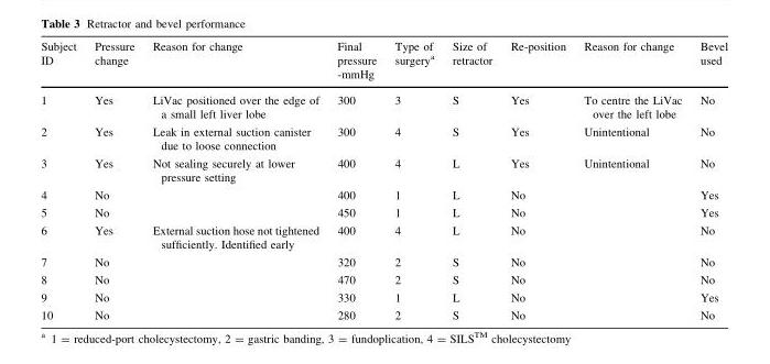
<table><thead><tr><td>Subject ID</td><td>Pressure change</td><td>Reason for change</td><td>Final pressure -mmHg</td><td>Type of surgery<sup>a</sup></td><td>Size of retractor</td><td>Re-position</td><td>Reason for change</td><td>Bevel used</td></tr></thead><tbody><tr><td>1</td><td>Yes</td><td>LiVac positioned over the edge of a small left liver lobe</td><td>300</td><td>3</td><td>S</td><td>Yes</td><td>To centre the LiVac over the left lobe</td><td>No</td></tr><tr><td>2</td><td>Yes</td><td>Leak in external suction canister due to loose connection</td><td>300</td><td>4</td><td>S</td><td>Yes</td><td>Unintentional</td><td>No</td></tr><tr><td>3</td><td>Yes</td><td>Not sealing securely at lower pressure setting</td><td>400</td><td>4</td><td>L</td><td>Yes</td><td>Unintentional</td><td>No</td></tr><tr><td>4</td><td>No</td><td></td><td>400</td><td>1</td><td>L</td><td>No</td><td></td><td>Yes</td></tr><tr><td>5</td><td>No</td><td></td><td>450</td><td>1</td><td>L</td><td>No</td><td></td><td>Yes</td></tr><tr><td>6</td><td>Yes</td><td>External suction hose not tightened sufficiently. Identified early</td><td>400</td><td>4</td><td>L</td><td>No</td><td></td><td>No</td></tr><tr><td>7</td><td>No</td><td></td><td>320</td><td>2</td><td>S</td><td>No</td><td></td><td>No</td></tr><tr><td>8</td><td>No</td><td></td><td>470</td><td>2</td><td>S</td><td>No</td><td></td><td>No</td></tr><tr><td>9</td><td>No</td><td></td><td>330</td><td>1</td><td>L</td><td>No</td><td></td><td>Yes</td></tr><tr><td>10</td><td>No</td><td></td><td>280</td><td>2</td><td>S</td><td>No</td><td></td><td>No</td></tr></tbody></table>